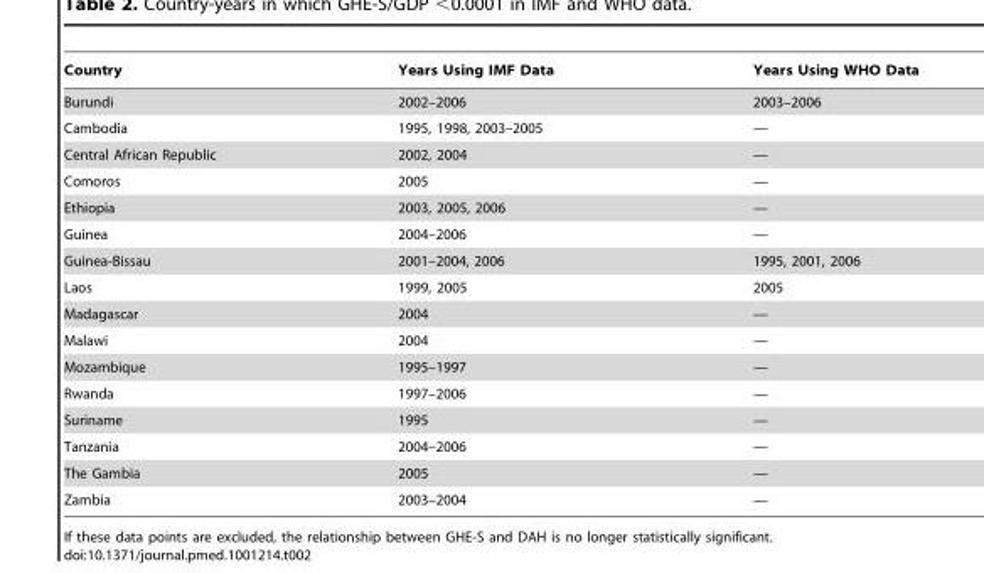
<table><thead><tr><td>Country</td><td>Years Using IMF Data</td><td>Years Using WHO Data</td></tr></thead><tbody><tr><td>Burundi</td><td>2002–2006</td><td>2003–2006</td></tr><tr><td>Cambodia</td><td>1995, 1998, 2003–2005</td><td>—</td></tr><tr><td>Central African Republic</td><td>2002, 2004</td><td>—</td></tr><tr><td>Comoros</td><td>2005</td><td>—</td></tr><tr><td>Ethiopia</td><td>2003, 2005, 2006</td><td>—</td></tr><tr><td>Guinea</td><td>2004–2006</td><td>—</td></tr><tr><td>Guinea-Bissau</td><td>2001–2004, 2006</td><td>1995, 2001, 2006</td></tr><tr><td>Laos</td><td>1999, 2005</td><td>2005</td></tr><tr><td>Madagascar</td><td>2004</td><td>—</td></tr><tr><td>Malawi</td><td>2004</td><td>—</td></tr><tr><td>Mozambique</td><td>1995–1997</td><td>—</td></tr><tr><td>Rwanda</td><td>1997–2006</td><td>—</td></tr><tr><td>Suriname</td><td>1995</td><td>—</td></tr><tr><td>Tanzania</td><td>2004–2006</td><td>—</td></tr><tr><td>The Gambia</td><td>2005</td><td>—</td></tr><tr><td>Zambia</td><td>2003–2004</td><td>—</td></tr></tbody></table>